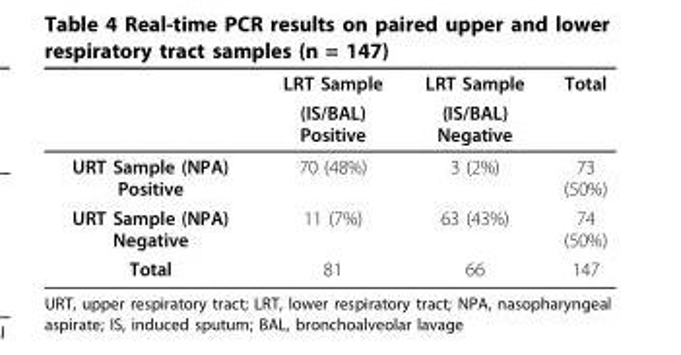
<table><thead><tr><td rowspan="2"></td><td rowspan="2">LRT Sample (IS/BAL) Positive</td><td rowspan="2">LRT Sample (IS/BAL) Negative</td><td rowspan="2">Total</td></tr><tr></tr></thead><tbody><tr><td>URT Sample (NPA) Positive</td><td>70 (48%)</td><td>3 (2%)</td><td>73 (50%)</td></tr><tr><td>URT Sample (NPA) Negative</td><td>11 (7%)</td><td>63 (43%)</td><td>74 (50%)</td></tr><tr><td>Total</td><td>81</td><td>66</td><td>147</td></tr></tbody></table>